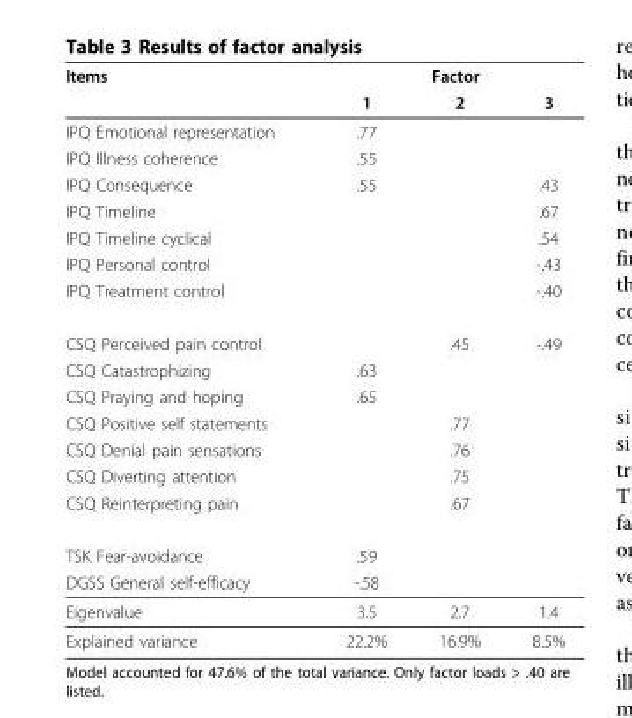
<table><thead><tr><td rowspan="2">Items</td><td colspan="3">Factor</td></tr><tr><td>1</td><td>2</td><td>3</td></tr></thead><tbody><tr><td>IPQ Emotional representation</td><td>.77</td><td></td><td></td></tr><tr><td>IPQ Illness coherence</td><td>.55</td><td></td><td></td></tr><tr><td>IPQ Consequence</td><td>.55</td><td></td><td>.43</td></tr><tr><td>IPQ Timeline</td><td></td><td></td><td>.67</td></tr><tr><td>IPQ Timeline cyclical</td><td></td><td></td><td>.54</td></tr><tr><td>IPQ Personal control</td><td></td><td></td><td>-.43</td></tr><tr><td>IPQ Treatment control</td><td></td><td></td><td>-.40</td></tr><tr><td>CSQ Perceived pain control</td><td></td><td>.45</td><td>-.49</td></tr><tr><td>CSQ Catastrophizing</td><td>.63</td><td></td><td></td></tr><tr><td>CSQ Praying and hoping</td><td>.65</td><td></td><td></td></tr><tr><td>CSQ Positive self statements</td><td></td><td>.77</td><td></td></tr><tr><td>CSQ Denial pain sensations</td><td></td><td>.76</td><td></td></tr><tr><td>CSQ Diverting attention</td><td></td><td>.75</td><td></td></tr><tr><td>CSQ Reinterpreting pain</td><td></td><td>.67</td><td></td></tr><tr><td>TSK Fear-avoidance</td><td>.59</td><td></td><td></td></tr><tr><td>DGSS General self-efficacy</td><td>-.58</td><td></td><td></td></tr><tr><td>Eigenvalue</td><td>3.5</td><td>2.7</td><td>1.4</td></tr><tr><td>Explained variance</td><td>22.2%</td><td>16.9%</td><td>8.5%</td></tr></tbody></table>